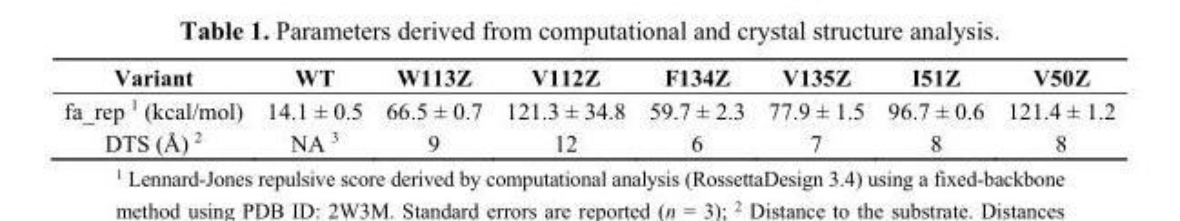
<table><thead><tr><td>Variant</td><td>WT</td><td>W113Z</td><td>V112Z</td><td>F134Z</td><td>V135Z</td><td>I51Z</td><td>V50Z</td></tr></thead><tbody><tr><td>fa_rep <sup>1</sup> (kcal/mol)</td><td>14.1 ± 0.5</td><td>66.5 ± 0.7</td><td>121.3 ± 34.8</td><td>59.7 ± 2.3</td><td>77.9 ± 1.5</td><td>96.7 ± 0.6</td><td>121.4 ± 1.2</td></tr><tr><td>DTS (Å) <sup>2</sup></td><td>NA <sup>3</sup></td><td>9</td><td>12</td><td>6</td><td>7</td><td>8</td><td>8</td></tr></tbody></table>